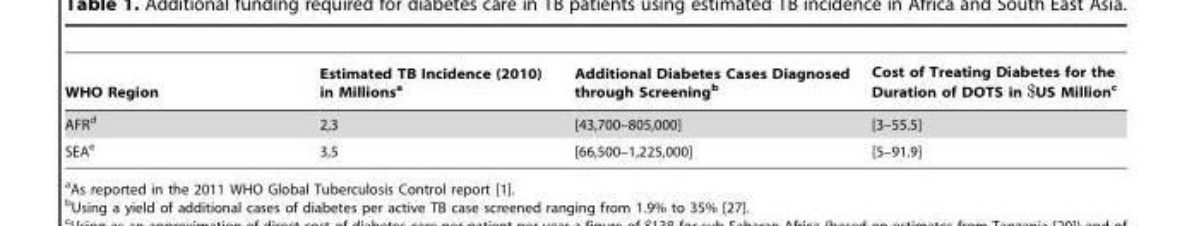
<table><thead><tr><td>WHO Region</td><td>Estimated TB Incidence (2010) in Millions<sup>a</sup></td><td>Additional Diabetes Cases Diagnosed through Screening<sup>b</sup></td><td>Cost of Treating Diabetes for the Duration of DOTS in $US Million<sup>c</sup></td></tr></thead><tbody><tr><td>AFR<sup>d</sup></td><td>2,3</td><td>[43,700–805,000]</td><td>[3–55.5]</td></tr><tr><td>SEA<sup>e</sup></td><td>3,5</td><td>[66,500–1,225,000]</td><td>[5–91.9]</td></tr></tbody></table>